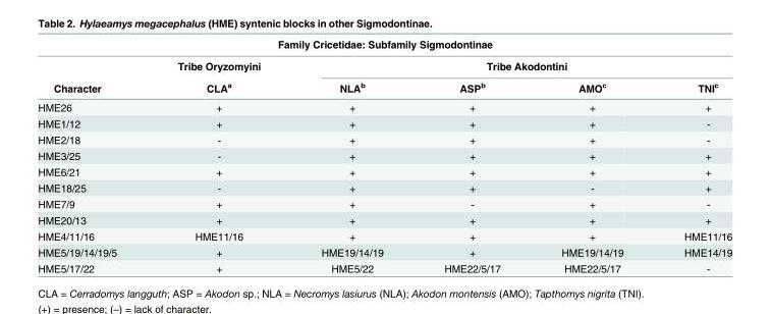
<table><thead><tr><td colspan="6">Family Cricetidae: Subfamily Sigmodontinae</td></tr><tr><td rowspan="2">Character</td><td rowspan="2">Tribe Oryzomyini CLA<sup>a</sup></td><td colspan="4">Tribe Akodontini</td></tr><tr><td>NLA<sup>b</sup></td><td>ASP<sup>b</sup></td><td>AMO<sup>c</sup></td><td>TNI<sup>c</sup></td></tr></thead><tbody><tr><td>HME26</td><td>+</td><td>+</td><td>+</td><td>+</td><td>+</td></tr><tr><td>HME1/12</td><td>+</td><td>+</td><td>+</td><td>+</td><td>-</td></tr><tr><td>HME2/18</td><td>-</td><td>+</td><td>+</td><td>+</td><td>-</td></tr><tr><td>HME3/25</td><td>-</td><td>+</td><td>+</td><td>+</td><td>+</td></tr><tr><td>HME6/21</td><td>+</td><td>+</td><td>+</td><td>+</td><td>+</td></tr><tr><td>HME18/25</td><td>-</td><td>+</td><td>+</td><td>-</td><td>+</td></tr><tr><td>HME7/9</td><td>+</td><td>+</td><td>-</td><td>+</td><td>-</td></tr><tr><td>HME20/13</td><td>+</td><td>+</td><td>+</td><td>+</td><td>+</td></tr><tr><td>HME4/11/16</td><td>HME11/16</td><td>+</td><td>+</td><td>+</td><td>HME11/16</td></tr><tr><td>HME5/19/14/19/5</td><td>+</td><td>HME19/14/19</td><td>+</td><td>HME19/14/19</td><td>HME14/19</td></tr><tr><td>HME5/17/22</td><td>+</td><td>HME5/22</td><td>HME22/5/17</td><td>HME22/5/17</td><td>-</td></tr></tbody></table>